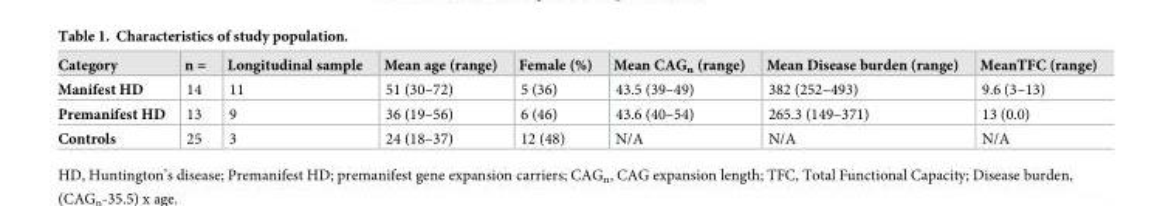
<table><thead><tr><td>Category</td><td>n =</td><td>Longitudinal sample</td><td>Mean age (range)</td><td>Female (%)</td><td>Mean CAG<sub>n</sub> (range)</td><td>Mean Disease burden (range)</td><td>MeanTFC (range)</td></tr></thead><tbody><tr><td>Manifest HD</td><td>14</td><td>11</td><td>51 (30–72)</td><td>5 (36)</td><td>43.5 (39–49)</td><td>382 (252–493)</td><td>9.6 (3–13)</td></tr><tr><td>Premanifest HD</td><td>13</td><td>9</td><td>36 (19–56)</td><td>6 (46)</td><td>43.6 (40–54)</td><td>265.3 (149–371)</td><td>13 (0.0)</td></tr><tr><td>Controls</td><td>25</td><td>3</td><td>24 (18–37)</td><td>12 (48)</td><td>N/A</td><td>N/A</td><td>N/A</td></tr></tbody></table>